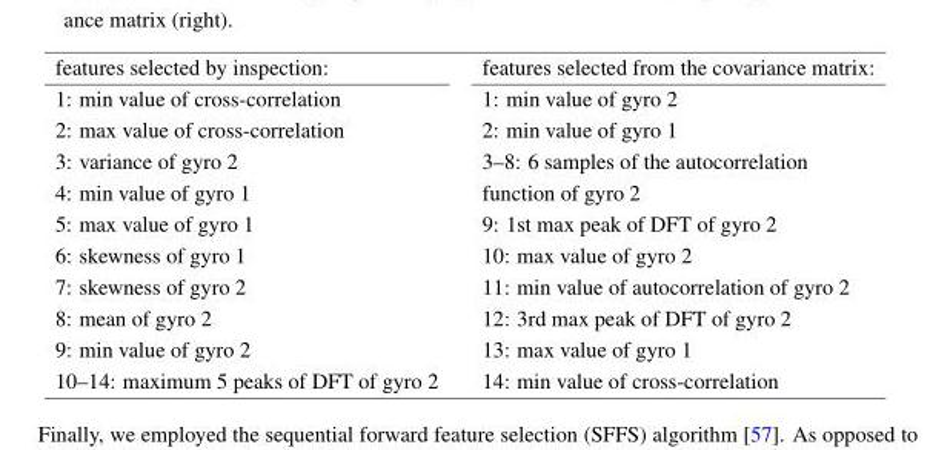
<table><thead><tr><td>features selected by inspection:</td><td>features selected from the covariance matrix:</td></tr></thead><tbody><tr><td>1: min value of cross-correlation</td><td>1: min value of gyro 2</td></tr><tr><td>2: max value of cross-correlation</td><td>2: min value of gyro 1</td></tr><tr><td>3: variance of gyro 2</td><td>3–8: 6 samples of the autocorrelation</td></tr><tr><td>4: min value of gyro 1</td><td>function of gyro 2</td></tr><tr><td>5: max value of gyro 1</td><td>9: 1st max peak of DFT of gyro 2</td></tr><tr><td>6: skewness of gyro 1</td><td>10: max value of gyro 2</td></tr><tr><td>7: skewness of gyro 2</td><td>11: min value of autocorrelation of gyro 2</td></tr><tr><td>8: mean of gyro 2</td><td>12: 3rd max peak of DFT of gyro 2</td></tr><tr><td>9: min value of gyro 2</td><td>13: max value of gyro 1</td></tr><tr><td>10–14: maximum 5 peaks of DFT of gyro 2</td><td>14: min value of cross-correlation</td></tr></tbody></table>